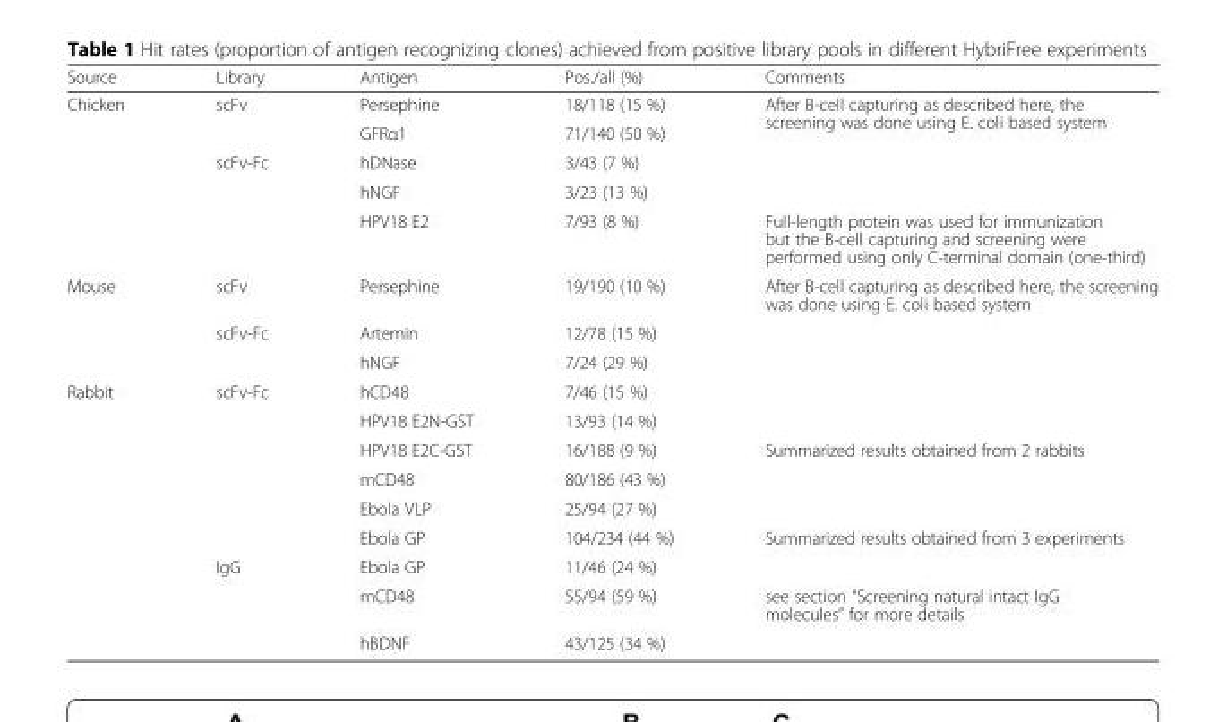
<table><thead><tr><td>Source</td><td>Library</td><td>Antigen</td><td>Pos./all (%)</td><td>Comments</td></tr></thead><tbody><tr><td rowspan="5">Chicken</td><td rowspan="2">scFv</td><td>Persephine</td><td>18/118 (15 %)</td><td rowspan="2">After B-cell capturing as described here, the screening was done using E. coli based system</td></tr><tr><td>GFRα1</td><td>71/140 (50 %)</td></tr><tr><td rowspan="3">scFv-Fc</td><td>hDNase</td><td>3/43 (7 %)</td><td></td></tr><tr><td>hNGF</td><td>3/23 (13 %)</td><td></td></tr><tr><td>HPV18 E2</td><td>7/93 (8 %)</td><td>Full-length protein was used for immunization but the B-cell capturing and screening were performed using only C-terminal domain (one-third)</td></tr><tr><td rowspan="3">Mouse</td><td>scFv</td><td>Persephine</td><td>19/190 (10 %)</td><td>After B-cell capturing as described here, the screening was done using E. coli based system</td></tr><tr><td rowspan="2">scFv-Fc</td><td>Artemin</td><td>12/78 (15 %)</td><td></td></tr><tr><td>hNGF</td><td>7/24 (29 %)</td><td></td></tr><tr><td rowspan="9">Rabbit</td><td rowspan="6">scFv-Fc</td><td>hCD48</td><td>7/46 (15 %)</td><td></td></tr><tr><td>HPV18 E2N-GST</td><td>13/93 (14 %)</td><td></td></tr><tr><td>HPV18 E2C-GST</td><td>16/188 (9 %)</td><td>Summarized results obtained from 2 rabbits</td></tr><tr><td>mCD48</td><td>80/186 (43 %)</td><td></td></tr><tr><td>Ebola VLP</td><td>25/94 (27 %)</td><td></td></tr><tr><td>Ebola GP</td><td>104/234 (44 %)</td><td>Summarized results obtained from 3 experiments</td></tr><tr><td rowspan="3">IgG</td><td>Ebola GP</td><td>11/46 (24 %)</td><td></td></tr><tr><td>mCD48</td><td>55/94 (59 %)</td><td>see section “Screening natural intact IgG molecules” for more details</td></tr><tr><td>hBDNF</td><td>43/125 (34 %)</td><td></td></tr></tbody></table>